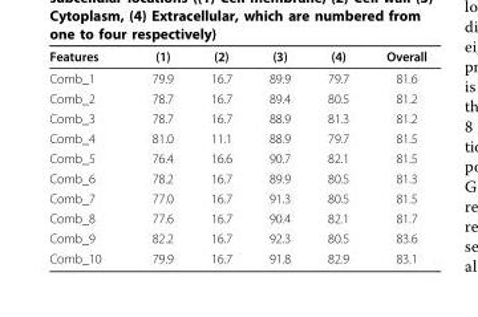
<table><thead><tr><td>Features</td><td>(1)</td><td>(2)</td><td>(3)</td><td>(4)</td><td>Overall</td></tr></thead><tbody><tr><td>Comb_1</td><td>79.9</td><td>16.7</td><td>89.9</td><td>79.7</td><td>81.6</td></tr><tr><td>Comb_2</td><td>78.7</td><td>16.7</td><td>89.4</td><td>80.5</td><td>81.2</td></tr><tr><td>Comb_3</td><td>78.7</td><td>16.7</td><td>88.9</td><td>81.3</td><td>81.2</td></tr><tr><td>Comb_4</td><td>81.0</td><td>11.1</td><td>88.9</td><td>79.7</td><td>81.5</td></tr><tr><td>Comb_5</td><td>76.4</td><td>16.6</td><td>90.7</td><td>82.1</td><td>81.5</td></tr><tr><td>Comb_6</td><td>78.2</td><td>16.7</td><td>89.9</td><td>80.5</td><td>81.3</td></tr><tr><td>Comb_7</td><td>77.0</td><td>16.7</td><td>91.3</td><td>80.5</td><td>81.5</td></tr><tr><td>Comb_8</td><td>77.6</td><td>16.7</td><td>90.4</td><td>82.1</td><td>81.7</td></tr><tr><td>Comb_9</td><td>82.2</td><td>16.7</td><td>92.3</td><td>80.5</td><td>83.6</td></tr><tr><td>Comb_10</td><td>79.9</td><td>16.7</td><td>91.8</td><td>82.9</td><td>83.1</td></tr></tbody></table>